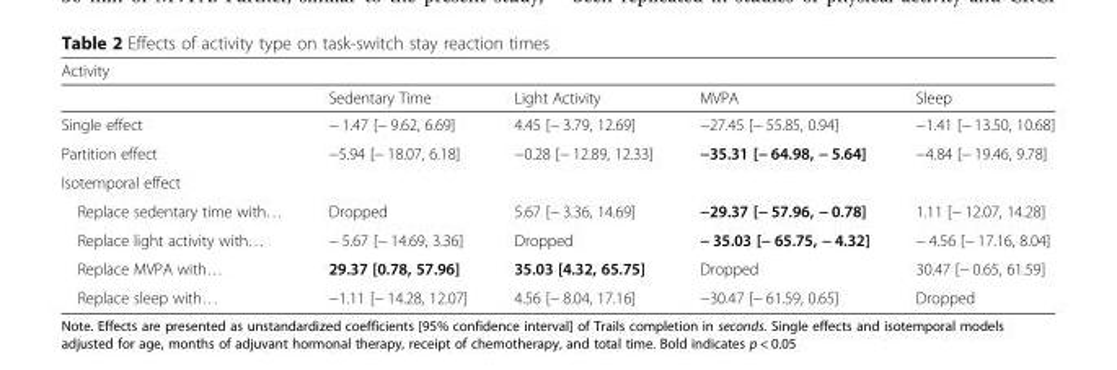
<table><thead><tr><td colspan="5">Activity</td></tr><tr><td></td><td>Sedentary Time</td><td>Light Activity</td><td>MVPA</td><td>Sleep</td></tr></thead><tbody><tr><td>Single effect</td><td>− 1.47 [− 9.62, 6.69]</td><td>4.45 [− 3.79, 12.69]</td><td>−27.45 [− 55.85, 0.94]</td><td>−1.41 [− 13.50, 10.68]</td></tr><tr><td>Partition effect</td><td>−5.94 [− 18.07, 6.18]</td><td>−0.28 [− 12.89, 12.33]</td><td>−35.31 [− 64.98, − 5.64]</td><td>−4.84 [− 19.46, 9.78]</td></tr><tr><td colspan="5">Isotemporal effect</td></tr><tr><td>Replace sedentary time with…</td><td>Dropped</td><td>5.67 [− 3.36, 14.69]</td><td>−29.37 [− 57.96, − 0.78]</td><td>1.11 [− 12.07, 14.28]</td></tr><tr><td>Replace light activity with…</td><td>− 5.67 [− 14.69, 3.36]</td><td>Dropped</td><td>− 35.03 [− 65.75, − 4.32]</td><td>− 4.56 [− 17.16, 8.04]</td></tr><tr><td>Replace MVPA with…</td><td>29.37 [0.78, 57.96]</td><td>35.03 [4.32, 65.75]</td><td>Dropped</td><td>30.47 [− 0.65, 61.59]</td></tr><tr><td>Replace sleep with…</td><td>−1.11 [− 14.28, 12.07]</td><td>4.56 [− 8.04, 17.16]</td><td>−30.47 [− 61.59, 0.65]</td><td>Dropped</td></tr></tbody></table>